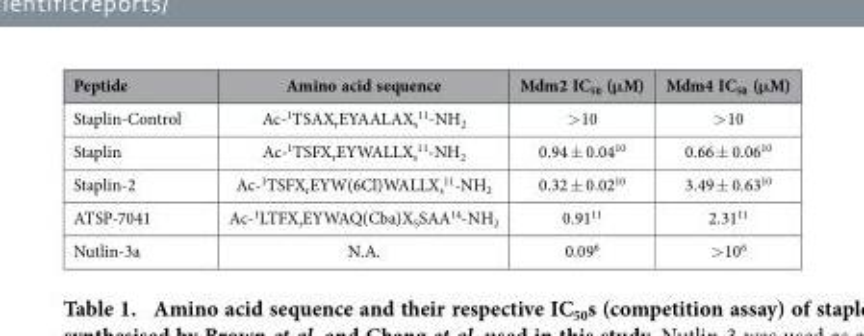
<table><thead><tr><td>Peptide</td><td>Amino acid sequence</td><td>Mdm2 IC<sub>50</sub> (μM)</td><td>Mdm4 IC<sub>50</sub> (μM)</td></tr></thead><tbody><tr><td>Staplin-Control</td><td>Ac-<sup>1</sup>TSAX<sub>r</sub>EYAALAX<sub>s</sub> <sup>11</sup>-NH<sub>2</sub></td><td>&gt; 10</td><td>&gt; 10</td></tr><tr><td>Staplin</td><td>Ac-<sup>1</sup>TSFX<sub>r</sub>EYWALLX<sub>s</sub> <sup>11</sup>-NH<sub>2</sub></td><td>0.94 ± 0.04<sup>10</sup></td><td>0.66 ± 0.06<sup>10</sup></td></tr><tr><td>Staplin-2</td><td>Ac-<sup>1</sup>TSFX<sub>r</sub>EYW(6Cl)WALLX<sub>s</sub> <sup>11</sup>-NH<sub>2</sub></td><td>0.32 ± 0.02<sup>10</sup></td><td>3.49 ± 0.63<sup>10</sup></td></tr><tr><td>ATSP-7041</td><td>Ac-<sup>1</sup>LTFX<sub>r</sub>EYWAQ(Cba)X<sub>S</sub>SAA<sup>14</sup>-NH<sub>2</sub></td><td>0.91<sup>11</sup></td><td>2.31<sup>11</sup></td></tr><tr><td>Nutlin-3a</td><td>N.A.</td><td>0.09<sup>6</sup></td><td>&gt; 10<sup>6</sup></td></tr></tbody></table>